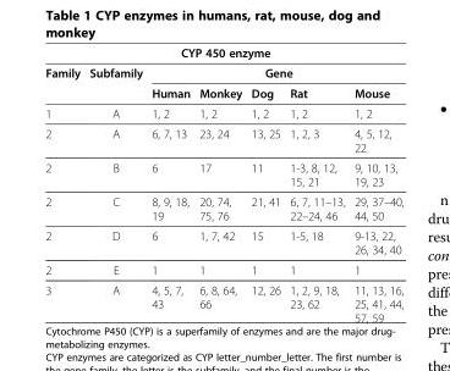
<table><thead><tr><td colspan="7">CYP 450 enzyme</td></tr><tr><td>Family</td><td>Subfamily</td><td colspan="5">Gene</td></tr><tr><td colspan="2"></td><td>Human</td><td>Monkey</td><td>Dog</td><td>Rat</td><td>Mouse</td></tr></thead><tbody><tr><td>1</td><td>A</td><td>1, 2</td><td>1, 2</td><td>1, 2</td><td>1, 2</td><td>1, 2</td></tr><tr><td>2</td><td>A</td><td>6, 7, 13</td><td>23, 24</td><td>13, 25</td><td>1, 2, 3</td><td>4, 5, 12, 22</td></tr><tr><td>2</td><td>B</td><td>6</td><td>17</td><td>11</td><td>1-3, 8, 12, 15, 21</td><td>9, 10, 13, 19, 23</td></tr><tr><td>2</td><td>C</td><td>8, 9, 18, 19</td><td>20, 74, 75, 76</td><td>21, 41</td><td>6, 7, 11–13, 22–24, 46</td><td>29, 37–40, 44, 50</td></tr><tr><td>2</td><td>D</td><td>6</td><td>1, 7, 42</td><td>15</td><td>1-5, 18</td><td>9-13, 22, 26, 34, 40</td></tr><tr><td>2</td><td>E</td><td>1</td><td>1</td><td>1</td><td>1</td><td>1</td></tr><tr><td>3</td><td>A</td><td>4, 5, 7, 43</td><td>6, 8, 64, 66</td><td>12, 26</td><td>1, 2, 9, 18, 23, 62</td><td>11, 13, 16, 25, 41, 44, 57, 59</td></tr></tbody></table>